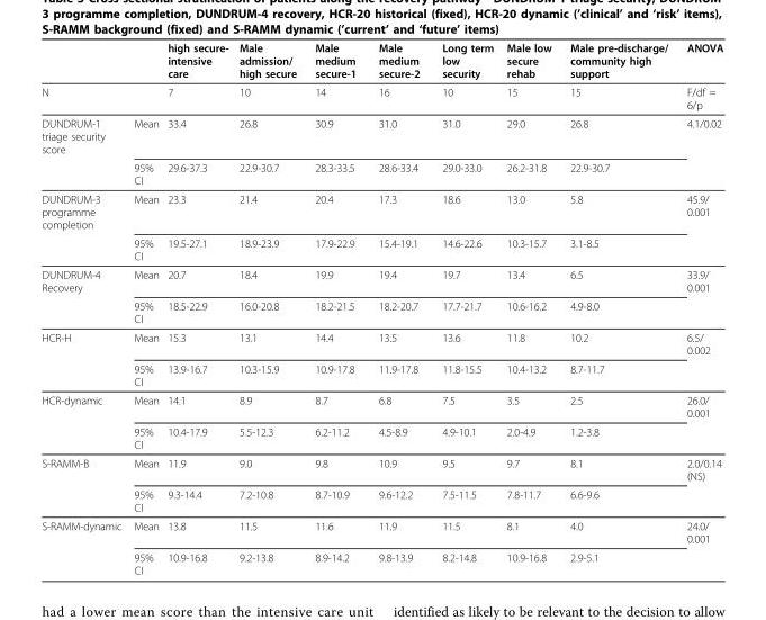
<table><thead><tr><td></td><td></td><td>high secure- intensive care</td><td>Male admission/ high secure</td><td>Male medium secure-1</td><td>Male medium secure-2</td><td>Long term low security</td><td>Male low secure rehab</td><td>Male pre-discharge/ community high support</td><td>ANOVA</td></tr></thead><tbody><tr><td>N</td><td></td><td>7</td><td>10</td><td>14</td><td>16</td><td>10</td><td>15</td><td>15</td><td>F/df = 6/p</td></tr><tr><td rowspan="2">DUNDRUM-1 triage security score</td><td>Mean</td><td>33.4</td><td>26.8</td><td>30.9</td><td>31.0</td><td>31.0</td><td>29.0</td><td>26.8</td><td>4.1/0.02</td></tr><tr><td>95% CI</td><td>29.6-37.3</td><td>22.9-30.7</td><td>28.3-33.5</td><td>28.6-33.4</td><td>29.0-33.0</td><td>26.2-31.8</td><td>22.9-30.7</td><td></td></tr><tr><td rowspan="2">DUNDRUM-3 programme completion</td><td>Mean</td><td>23.3</td><td>21.4</td><td>20.4</td><td>17.3</td><td>18.6</td><td>13.0</td><td>5.8</td><td>45.9/ 0.001</td></tr><tr><td>95% CI</td><td>19.5-27.1</td><td>18.9-23.9</td><td>17.9-22.9</td><td>15.4-19.1</td><td>14.6-22.6</td><td>10.3-15.7</td><td>3.1-8.5</td><td></td></tr><tr><td rowspan="2">DUNDRUM-4 Recovery</td><td>Mean</td><td>20.7</td><td>18.4</td><td>19.9</td><td>19.4</td><td>19.7</td><td>13.4</td><td>6.5</td><td>33.9/ 0.001</td></tr><tr><td>95% CI</td><td>18.5-22.9</td><td>16.0-20.8</td><td>18.2-21.5</td><td>18.2-20.7</td><td>17.7-21.7</td><td>10.6-16.2</td><td>4.9-8.0</td><td></td></tr><tr><td rowspan="2">HCR-H</td><td>Mean</td><td>15.3</td><td>13.1</td><td>14.4</td><td>13.5</td><td>13.6</td><td>11.8</td><td>10.2</td><td>6.5/ 0.002</td></tr><tr><td>95% CI</td><td>13.9-16.7</td><td>10.3-15.9</td><td>10.9-17.8</td><td>11.9-17.8</td><td>11.8-15.5</td><td>10.4-13.2</td><td>8.7-11.7</td><td></td></tr><tr><td rowspan="2">HCR-dynamic</td><td>Mean</td><td>14.1</td><td>8.9</td><td>8.7</td><td>6.8</td><td>7.5</td><td>3.5</td><td>2.5</td><td>26.0/ 0.001</td></tr><tr><td>95% CI</td><td>10.4-17.9</td><td>5.5-12.3</td><td>6.2-11.2</td><td>4.5-8.9</td><td>4.9-10.1</td><td>2.0-4.9</td><td>1.2-3.8</td><td></td></tr><tr><td rowspan="2">S-RAMM-B</td><td>Mean</td><td>11.9</td><td>9.0</td><td>9.8</td><td>10.9</td><td>9.5</td><td>9.7</td><td>8.1</td><td>2.0/0.14 (NS)</td></tr><tr><td>95% CI</td><td>9.3-14.4</td><td>7.2-10.8</td><td>8.7-10.9</td><td>9.6-12.2</td><td>7.5-11.5</td><td>7.8-11.7</td><td>6.6-9.6</td><td></td></tr><tr><td rowspan="2">S-RAMM-dynamic</td><td>Mean</td><td>13.8</td><td>11.5</td><td>11.6</td><td>11.9</td><td>11.5</td><td>8.1</td><td>4.0</td><td>24.0/ 0.001</td></tr><tr><td>95% CI</td><td>10.9-16.8</td><td>9.2-13.8</td><td>8.9-14.2</td><td>9.8-13.9</td><td>8.2-14.8</td><td>10.9-16.8</td><td>2.9-5.1</td><td></td></tr></tbody></table>